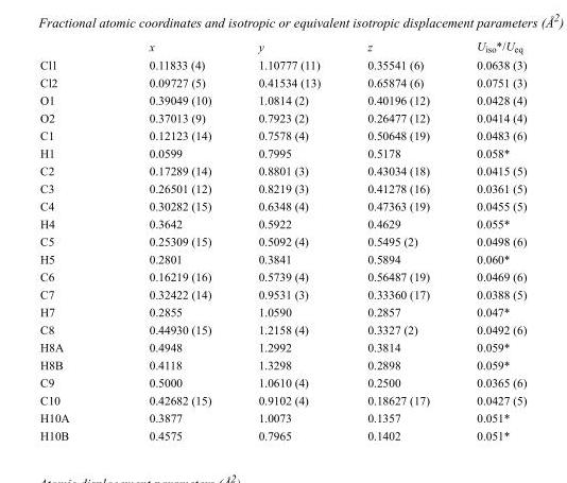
<table><thead><tr><td></td><td>x</td><td>y</td><td>z</td><td>U<sub>iso</sub>*/U<sub>eq</sub></td></tr></thead><tbody><tr><td>Cl1</td><td>0.11833 (4)</td><td>1.10777 (11)</td><td>0.35541 (6)</td><td>0.0638 (3)</td></tr><tr><td>Cl2</td><td>0.09727 (5)</td><td>0.41534 (13)</td><td>0.65874 (6)</td><td>0.0751 (3)</td></tr><tr><td>O1</td><td>0.39049 (10)</td><td>1.0814 (2)</td><td>0.40196 (12)</td><td>0.0428 (4)</td></tr><tr><td>O2</td><td>0.37013 (9)</td><td>0.7923 (2)</td><td>0.26477 (12)</td><td>0.0414 (4)</td></tr><tr><td>C1</td><td>0.12123 (14)</td><td>0.7578 (4)</td><td>0.50648 (19)</td><td>0.0483 (6)</td></tr><tr><td>H1</td><td>0.0599</td><td>0.7995</td><td>0.5178</td><td>0.058*</td></tr><tr><td>C2</td><td>0.17289 (14)</td><td>0.8801 (3)</td><td>0.43034 (18)</td><td>0.0415 (5)</td></tr><tr><td>C3</td><td>0.26501 (12)</td><td>0.8219 (3)</td><td>0.41278 (16)</td><td>0.0361 (5)</td></tr><tr><td>C4</td><td>0.30282 (15)</td><td>0.6348 (4)</td><td>0.47363 (19)</td><td>0.0455 (5)</td></tr><tr><td>H4</td><td>0.3642</td><td>0.5922</td><td>0.4629</td><td>0.055*</td></tr><tr><td>C5</td><td>0.25309 (15)</td><td>0.5092 (4)</td><td>0.5495 (2)</td><td>0.0498 (6)</td></tr><tr><td>H5</td><td>0.2801</td><td>0.3841</td><td>0.5894</td><td>0.060*</td></tr><tr><td>C6</td><td>0.16219 (16)</td><td>0.5739 (4)</td><td>0.56487 (19)</td><td>0.0469 (6)</td></tr><tr><td>C7</td><td>0.32422 (14)</td><td>0.9531 (3)</td><td>0.33360 (17)</td><td>0.0388 (5)</td></tr><tr><td>H7</td><td>0.2855</td><td>1.0590</td><td>0.2857</td><td>0.047*</td></tr><tr><td>C8</td><td>0.44930 (15)</td><td>1.2158 (4)</td><td>0.3327 (2)</td><td>0.0492 (6)</td></tr><tr><td>H8A</td><td>0.4948</td><td>1.2992</td><td>0.3814</td><td>0.059*</td></tr><tr><td>H8B</td><td>0.4118</td><td>1.3298</td><td>0.2898</td><td>0.059*</td></tr><tr><td>C9</td><td>0.5000</td><td>1.0610 (4)</td><td>0.2500</td><td>0.0365 (6)</td></tr><tr><td>C10</td><td>0.42682 (15)</td><td>0.9102 (4)</td><td>0.18627 (17)</td><td>0.0427 (5)</td></tr><tr><td>H10A</td><td>0.3877</td><td>1.0073</td><td>0.1357</td><td>0.051*</td></tr><tr><td>H10B</td><td>0.4575</td><td>0.7965</td><td>0.1402</td><td>0.051*</td></tr></tbody></table>